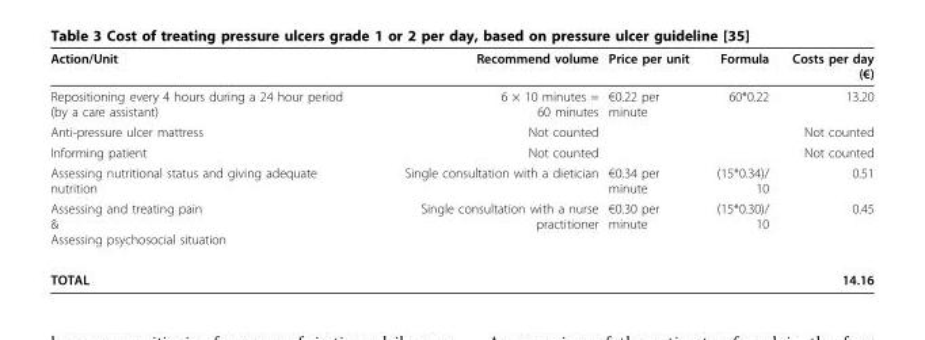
<table><thead><tr><td>Action/Unit</td><td>Recommend volume</td><td>Price per unit</td><td>Formula</td><td>Costs per day (€)</td></tr></thead><tbody><tr><td>Repositioning every 4 hours during a 24 hour period (by a care assistant)</td><td>6 × 10 minutes = 60 minutes</td><td>€0.22 per minute</td><td>60*0.22</td><td>13.20</td></tr><tr><td>Anti-pressure ulcer mattress</td><td>Not counted</td><td></td><td></td><td>Not counted</td></tr><tr><td>Informing patient</td><td>Not counted</td><td></td><td></td><td>Not counted</td></tr><tr><td>Assessing nutritional status and giving adequate nutrition</td><td>Single consultation with a dietician</td><td>€0.34 per minute</td><td>(15*0.34)/ 10</td><td>0.51</td></tr><tr><td>Assessing and treating pain &amp; Assessing psychosocial situation</td><td>Single consultation with a nurse practitioner</td><td>€0.30 per minute</td><td>(15*0.30)/ 10</td><td>0.45</td></tr><tr><td>TOTAL</td><td></td><td></td><td></td><td>14.16</td></tr></tbody></table>